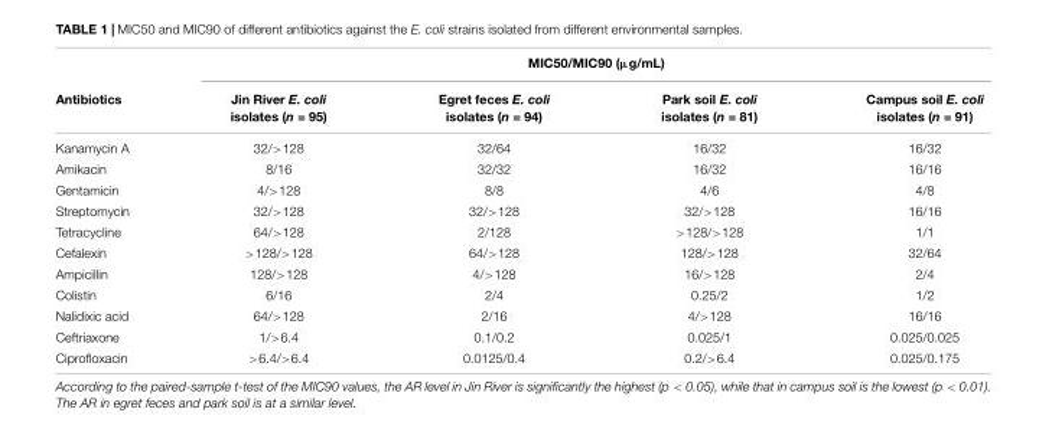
<table><thead><tr><td rowspan="2">Antibiotics</td><td colspan="4">MIC50/MIC90 (µg/mL)</td></tr><tr><td>Jin River E. coli isolates (n = 95)</td><td>Egret feces E. coli isolates (n = 94)</td><td>Park soil E. coli isolates (n = 81)</td><td>Campus soil E. coli isolates (n = 91)</td></tr></thead><tbody><tr><td>Kanamycin A</td><td>32/&gt;128</td><td>32/64</td><td>16/32</td><td>16/32</td></tr><tr><td>Amikacin</td><td>8/16</td><td>32/32</td><td>16/32</td><td>16/16</td></tr><tr><td>Gentamicin</td><td>4/&gt;128</td><td>8/8</td><td>4/6</td><td>4/8</td></tr><tr><td>Streptomycin</td><td>32/&gt;128</td><td>32/&gt;128</td><td>32/&gt;128</td><td>16/16</td></tr><tr><td>Tetracycline</td><td>64/&gt;128</td><td>2/128</td><td>&gt;128/&gt;128</td><td>1/1</td></tr><tr><td>Cefalexin</td><td>&gt;128/&gt;128</td><td>64/&gt;128</td><td>128/&gt;128</td><td>32/64</td></tr><tr><td>Ampicillin</td><td>128/&gt;128</td><td>4/&gt;128</td><td>16/&gt;128</td><td>2/4</td></tr><tr><td>Colistin</td><td>6/16</td><td>2/4</td><td>0.25/2</td><td>1/2</td></tr><tr><td>Nalidixic acid</td><td>64/&gt;128</td><td>2/16</td><td>4/&gt;128</td><td>16/16</td></tr><tr><td>Ceftriaxone</td><td>1/&gt;6.4</td><td>0.1/0.2</td><td>0.025/1</td><td>0.025/0.025</td></tr><tr><td>Ciprofloxacin</td><td>&gt;6.4/&gt;6.4</td><td>0.0125/0.4</td><td>0.2/&gt;6.4</td><td>0.025/0.175</td></tr></tbody></table>